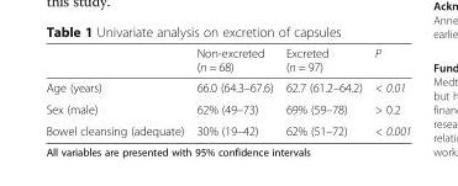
<table><thead><tr><td></td><td>Non-excreted (n = 68)</td><td>Excreted (n = 97)</td><td>P</td></tr></thead><tbody><tr><td>Age (years)</td><td>66.0 (64.3–67.6)</td><td>62.7 (61.2–64.2)</td><td>&lt; 0.01</td></tr><tr><td>Sex (male)</td><td>62% (49–73)</td><td>69% (59–78)</td><td>&gt; 0.2</td></tr><tr><td>Bowel cleansing (adequate)</td><td>30% (19–42)</td><td>62% (51–72)</td><td>&lt; 0.001</td></tr></tbody></table>